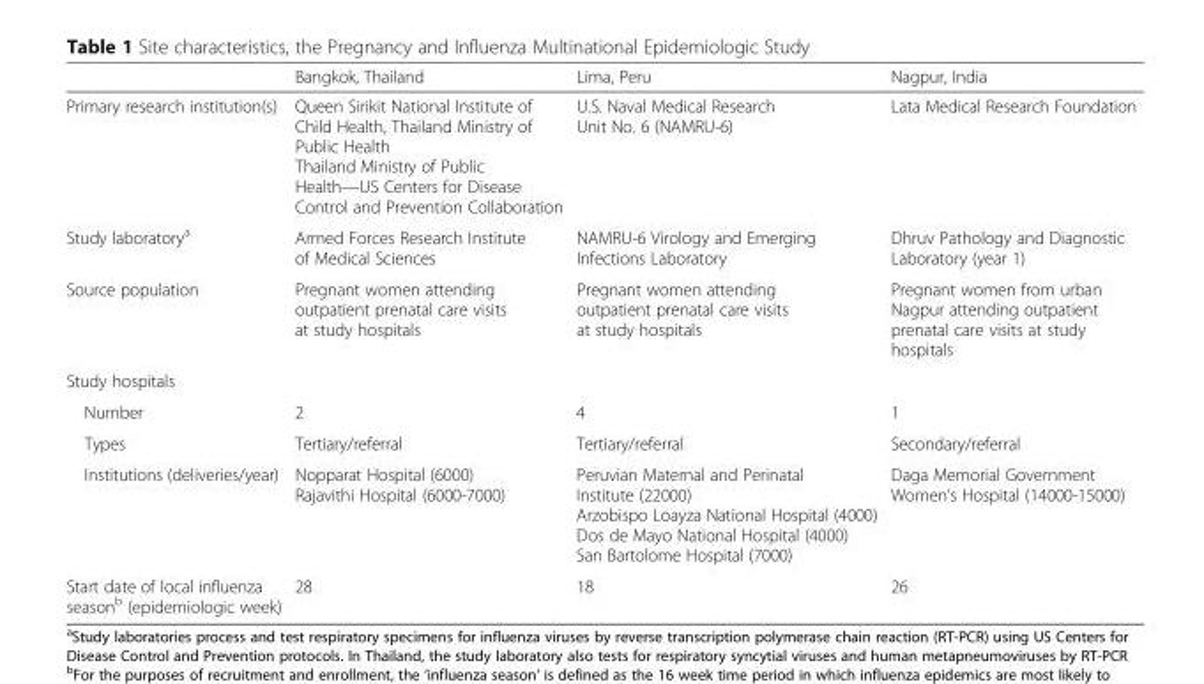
<table><thead><tr><td></td><td>Bangkok, Thailand</td><td>Lima, Peru</td><td>Nagpur, India</td></tr></thead><tbody><tr><td>Primary research institution(s)</td><td>Queen Sirikit National Institute of Child Health, Thailand Ministry of Public Health Thailand Ministry of Public Health—US Centers for Disease Control and Prevention Collaboration</td><td>U.S. Naval Medical Research Unit No. 6 (NAMRU-6)</td><td>Lata Medical Research Foundation</td></tr><tr><td>Study laboratory<sup>a</sup></td><td>Armed Forces Research Institute of Medical Sciences</td><td>NAMRU-6 Virology and Emerging Infections Laboratory</td><td>Dhruv Pathology and Diagnostic Laboratory (year 1)</td></tr><tr><td>Source population</td><td>Pregnant women attending outpatient prenatal care visits at study hospitals</td><td>Pregnant women attending outpatient prenatal care visits at study hospitals</td><td>Pregnant women from urban Nagpur attending outpatient prenatal care visits at study hospitals</td></tr><tr><td colspan="4">Study hospitals</td></tr><tr><td>Number</td><td>2</td><td>4</td><td>1</td></tr><tr><td>Types</td><td>Tertiary/referral</td><td>Tertiary/referral</td><td>Secondary/referral</td></tr><tr><td>Institutions (deliveries/year)</td><td>Nopparat Hospital (6000) Rajavithi Hospital (6000-7000)</td><td>Peruvian Maternal and Perinatal Institute (22000) Arzobispo Loayza National Hospital (4000) Dos de Mayo National Hospital (4000) San Bartolome Hospital (7000)</td><td>Daga Memorial Government Women’s Hospital (14000-15000)</td></tr><tr><td>Start date of local influenza season<sup>b</sup> (epidemiologic week)</td><td>28</td><td>18</td><td>26</td></tr></tbody></table>